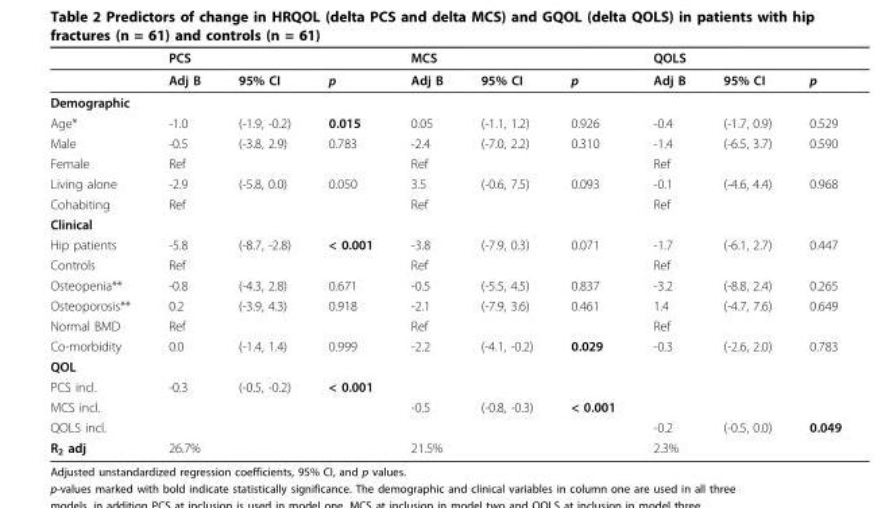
<table><thead><tr><td rowspan="2"></td><td colspan="3">PCS</td><td colspan="3">MCS</td><td colspan="3">QOLS</td></tr><tr><td>Adj B</td><td>95% CI</td><td>p</td><td>Adj B</td><td>95% CI</td><td>p</td><td>Adj B</td><td>95% CI</td><td>p</td></tr></thead><tbody><tr><td colspan="10">Demographic</td></tr><tr><td>Age*</td><td>-1.0</td><td>(-1.9, -0.2)</td><td>0.015</td><td>0.05</td><td>(-1.1, 1.2)</td><td>0.926</td><td>-0.4</td><td>(-1.7, 0.9)</td><td>0.529</td></tr><tr><td>Male</td><td>-0.5</td><td>(-3.8, 2.9)</td><td>0.783</td><td>-2.4</td><td>(-7.0, 2.2)</td><td>0.310</td><td>-1.4</td><td>(-6.5, 3.7)</td><td>0.590</td></tr><tr><td>Female</td><td>Ref</td><td></td><td></td><td>Ref</td><td></td><td></td><td>Ref</td><td></td><td></td></tr><tr><td>Living alone</td><td>-2.9</td><td>(-5.8, 0.0)</td><td>0.050</td><td>3.5</td><td>(-0.6, 7.5)</td><td>0.093</td><td>-0.1</td><td>(-4.6, 4.4)</td><td>0.968</td></tr><tr><td>Cohabiting</td><td>Ref</td><td></td><td></td><td>Ref</td><td></td><td></td><td>Ref</td><td></td><td></td></tr><tr><td colspan="10">Clinical</td></tr><tr><td>Hip patients</td><td>-5.8</td><td>(-8.7, -2.8)</td><td>&lt; 0.001</td><td>-3.8</td><td>(-7.9, 0.3)</td><td>0.071</td><td>-1.7</td><td>(-6.1, 2.7)</td><td>0.447</td></tr><tr><td>Controls</td><td>Ref</td><td></td><td></td><td>Ref</td><td></td><td></td><td>Ref</td><td></td><td></td></tr><tr><td>Osteopenia**</td><td>-0.8</td><td>(-4.3, 2.8)</td><td>0.671</td><td>-0.5</td><td>(-5.5, 4.5)</td><td>0.837</td><td>-3.2</td><td>(-8.8, 2.4)</td><td>0.265</td></tr><tr><td>Osteoporosis**</td><td>0.2</td><td>(-3.9, 4.3)</td><td>0.918</td><td>-2.1</td><td>(-7.9, 3.6)</td><td>0.461</td><td>1.4</td><td>(-4.7, 7.6)</td><td>0.649</td></tr><tr><td>Normal BMD</td><td>Ref</td><td></td><td></td><td>Ref</td><td></td><td></td><td>Ref</td><td></td><td></td></tr><tr><td>Co-morbidity</td><td>0.0</td><td>(-1.4, 1.4)</td><td>0.999</td><td>-2.2</td><td>(-4.1, -0.2)</td><td>0.029</td><td>-0.3</td><td>(-2.6, 2.0)</td><td>0.783</td></tr><tr><td colspan="10">QOL</td></tr><tr><td>PCS incl.</td><td>-0.3</td><td>(-0.5, -0.2)</td><td>&lt; 0.001</td><td></td><td></td><td></td><td></td><td></td><td></td></tr><tr><td>MCS incl.</td><td></td><td></td><td></td><td>-0.5</td><td>(-0.8, -0.3)</td><td>&lt; 0.001</td><td></td><td></td><td></td></tr><tr><td>QOLS incl.</td><td></td><td></td><td></td><td></td><td></td><td></td><td>-0.2</td><td>(-0.5, 0.0)</td><td>0.049</td></tr><tr><td>R<sub>2</sub> adj</td><td>26.7%</td><td></td><td></td><td>21.5%</td><td></td><td></td><td>2.3%</td><td></td><td></td></tr></tbody></table>